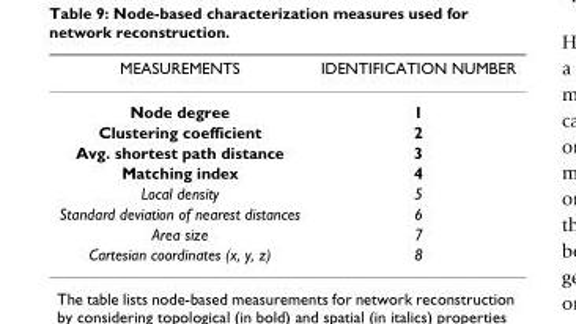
<table><thead><tr><td>MEASUREMENTS</td><td>IDENTIFICATION NUMBER</td></tr></thead><tbody><tr><td>Node degree</td><td>1</td></tr><tr><td>Clustering coefficient</td><td>2</td></tr><tr><td>Avg. shortest path distance</td><td>3</td></tr><tr><td>Matching index</td><td>4</td></tr><tr><td>Local density</td><td>5</td></tr><tr><td>Standard deviation of nearest distances</td><td>6</td></tr><tr><td>Area size</td><td>7</td></tr><tr><td>Cartesian coordinates (x, y, z)</td><td>8</td></tr></tbody></table>